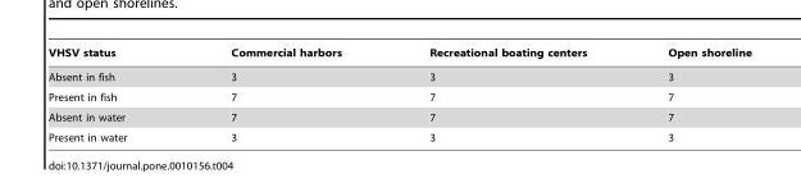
<table><thead><tr><td>VHSV status</td><td>Commercial harbors</td><td>Recreational boating centers</td><td>Open shoreline</td></tr></thead><tbody><tr><td>Absent in fish</td><td>3</td><td>3</td><td>3</td></tr><tr><td>Present in fish</td><td>7</td><td>7</td><td>7</td></tr><tr><td>Absent in water</td><td>7</td><td>7</td><td>7</td></tr><tr><td>Present in water</td><td>3</td><td>3</td><td>3</td></tr></tbody></table>